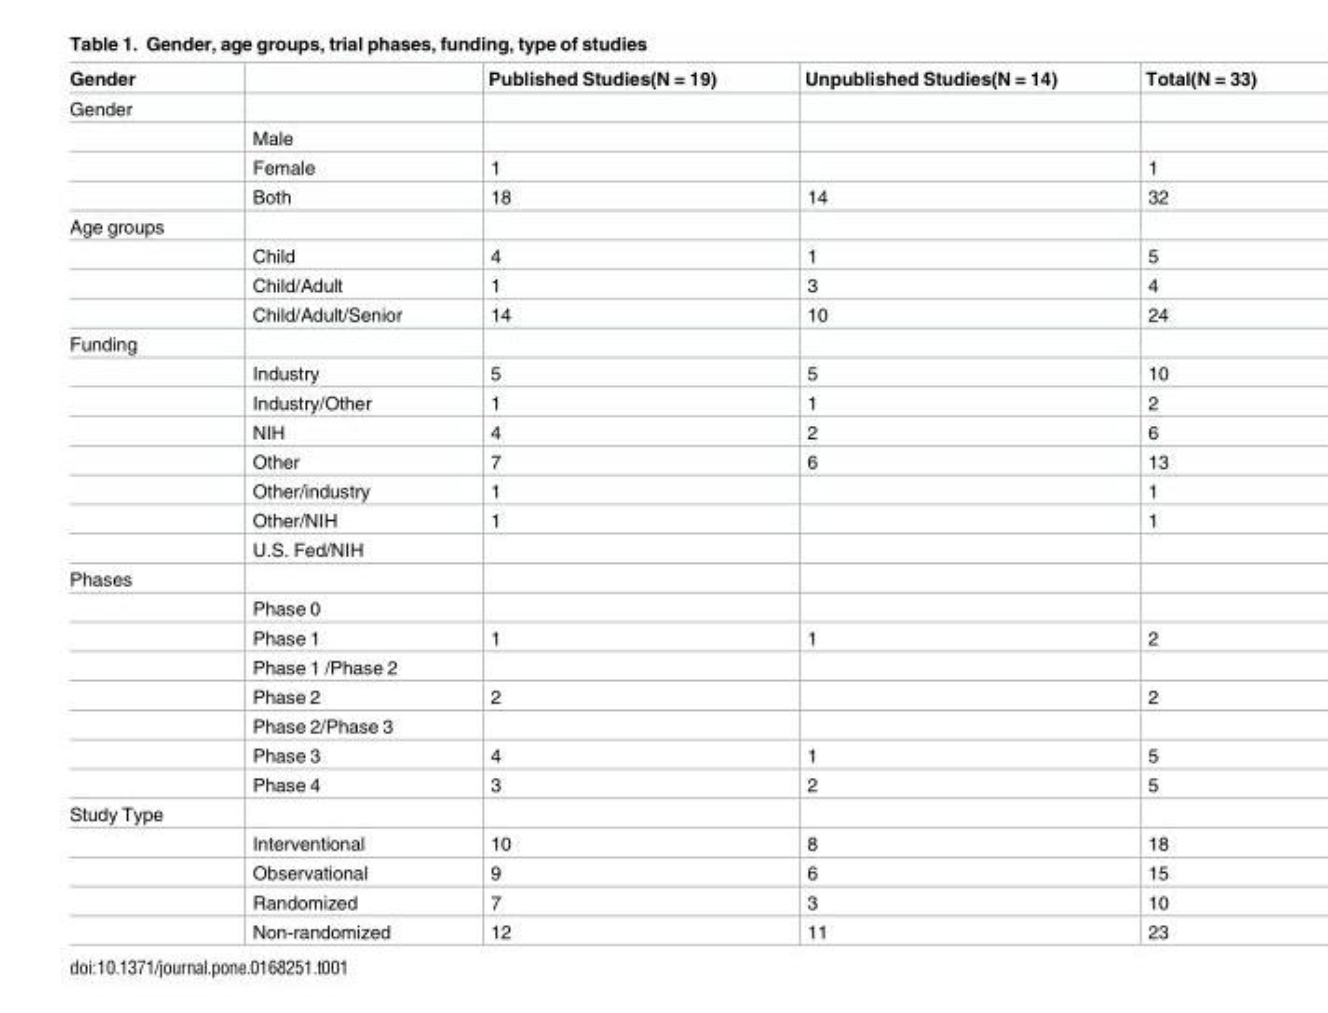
<table><thead><tr><td>Gender</td><td></td><td>Published Studies(N = 19)</td><td>Unpublished Studies(N = 14)</td><td>Total(N = 33)</td></tr></thead><tbody><tr><td colspan="5">Gender</td></tr><tr><td></td><td>Male</td><td></td><td></td><td></td></tr><tr><td></td><td>Female</td><td>1</td><td></td><td>1</td></tr><tr><td></td><td>Both</td><td>18</td><td>14</td><td>32</td></tr><tr><td colspan="5">Age groups</td></tr><tr><td></td><td>Child</td><td>4</td><td>1</td><td>5</td></tr><tr><td></td><td>Child/Adult</td><td>1</td><td>3</td><td>4</td></tr><tr><td></td><td>Child/Adult/Senior</td><td>14</td><td>10</td><td>24</td></tr><tr><td colspan="5">Funding</td></tr><tr><td></td><td>Industry</td><td>5</td><td>5</td><td>10</td></tr><tr><td></td><td>Industry/Other</td><td>1</td><td>1</td><td>2</td></tr><tr><td></td><td>NIH</td><td>4</td><td>2</td><td>6</td></tr><tr><td></td><td>Other</td><td>7</td><td>6</td><td>13</td></tr><tr><td></td><td>Other/industry</td><td>1</td><td></td><td>1</td></tr><tr><td></td><td>Other/NIH</td><td>1</td><td></td><td>1</td></tr><tr><td></td><td>U.S. Fed/NIH</td><td></td><td></td><td></td></tr><tr><td colspan="5">Phases</td></tr><tr><td></td><td>Phase 0</td><td></td><td></td><td></td></tr><tr><td></td><td>Phase 1</td><td>1</td><td>1</td><td>2</td></tr><tr><td></td><td>Phase 1 /Phase 2</td><td></td><td></td><td></td></tr><tr><td></td><td>Phase 2</td><td>2</td><td></td><td>2</td></tr><tr><td></td><td>Phase 2/Phase 3</td><td></td><td></td><td></td></tr><tr><td></td><td>Phase 3</td><td>4</td><td>1</td><td>5</td></tr><tr><td></td><td>Phase 4</td><td>3</td><td>2</td><td>5</td></tr><tr><td colspan="5">Study Type</td></tr><tr><td></td><td>Interventional</td><td>10</td><td>8</td><td>18</td></tr><tr><td></td><td>Observational</td><td>9</td><td>6</td><td>15</td></tr><tr><td></td><td>Randomized</td><td>7</td><td>3</td><td>10</td></tr><tr><td></td><td>Non-randomized</td><td>12</td><td>11</td><td>23</td></tr></tbody></table>